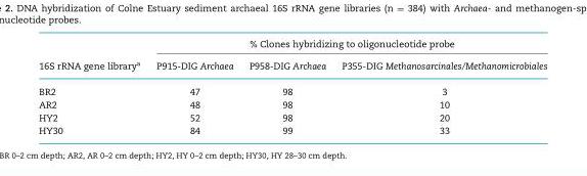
<table><thead><tr><td rowspan="2">16S rRNA gene library<sup>a</sup></td><td colspan="3">% Clones hybridizing to oligonucleotide probe</td></tr><tr><td>P915-DIG Archaea</td><td>P958-DIG Archaea</td><td>P355-DIG Methanosarcinales/Methanomicrobiales</td></tr></thead><tbody><tr><td>BR2</td><td>47</td><td>98</td><td>3</td></tr><tr><td>AR2</td><td>48</td><td>98</td><td>10</td></tr><tr><td>HY2</td><td>52</td><td>98</td><td>20</td></tr><tr><td>HY30</td><td>84</td><td>99</td><td>33</td></tr></tbody></table>